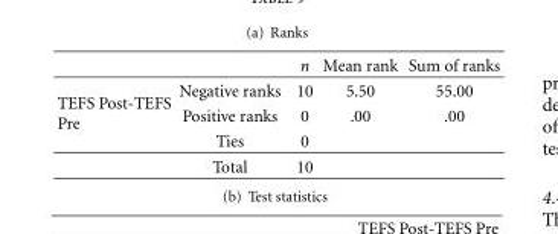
<table><thead><tr><td></td><td></td><td>n</td><td>Mean rank</td><td>Sum of ranks</td></tr></thead><tbody><tr><td rowspan="4">TEFS Post-TEFS Pre</td><td>Negative ranks</td><td>10</td><td>5.50</td><td>55.00</td></tr><tr><td>Positive ranks</td><td>0</td><td>.00</td><td>.00</td></tr><tr><td>Ties</td><td>0</td><td></td><td></td></tr><tr><td>Total</td><td>10</td><td></td><td></td></tr></tbody></table>